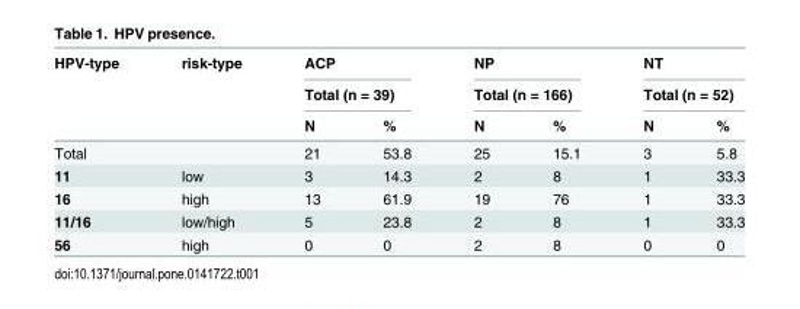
<table><thead><tr><td rowspan="3">HPV-type</td><td rowspan="3">risk-type</td><td rowspan="2" colspan="2">ACP Total (n = 39)</td><td rowspan="2" colspan="2">NP Total (n = 166)</td><td rowspan="2" colspan="2">NT Total (n = 52)</td></tr><tr></tr><tr><td>N</td><td>%</td><td>N</td><td>%</td><td>N</td><td>%</td></tr></thead><tbody><tr><td>Total</td><td></td><td>21</td><td>53.8</td><td>25</td><td>15.1</td><td>3</td><td>5.8</td></tr><tr><td>11</td><td>low</td><td>3</td><td>14.3</td><td>2</td><td>8</td><td>1</td><td>33.3</td></tr><tr><td>16</td><td>high</td><td>13</td><td>61.9</td><td>19</td><td>76</td><td>1</td><td>33.3</td></tr><tr><td>11/16</td><td>low/high</td><td>5</td><td>23.8</td><td>2</td><td>8</td><td>1</td><td>33.3</td></tr><tr><td>56</td><td>high</td><td>0</td><td>0</td><td>2</td><td>8</td><td>0</td><td>0</td></tr></tbody></table>